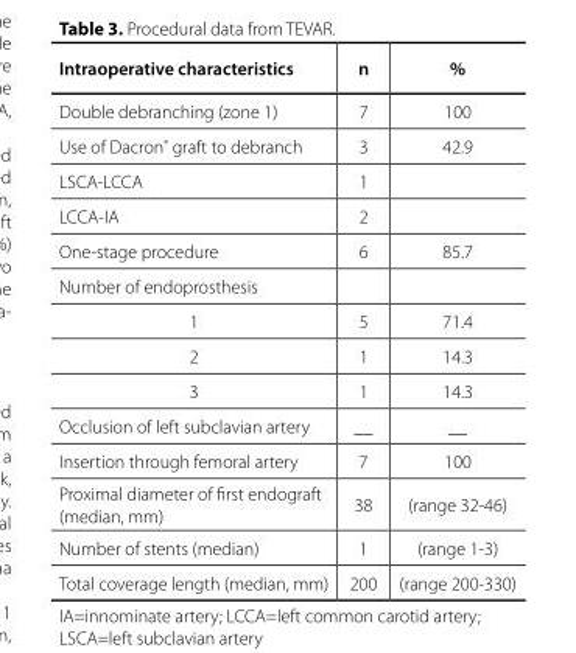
<table><thead><tr><td>Intraoperative characteristics</td><td>n</td><td>%</td></tr></thead><tbody><tr><td>Double debranching (zone 1)</td><td>7</td><td>100</td></tr><tr><td>Use of Dacron<sup>®</sup> graft to debranch</td><td>3</td><td>42.9</td></tr><tr><td>LSCA-LCCA</td><td>1</td><td></td></tr><tr><td>LCCA-IA</td><td>2</td><td></td></tr><tr><td>One-stage procedure</td><td>6</td><td>85.7</td></tr><tr><td colspan="3">Number of endoprosthesis</td></tr><tr><td>1</td><td>5</td><td>71.4</td></tr><tr><td>2</td><td>1</td><td>14.3</td></tr><tr><td>3</td><td>1</td><td>14.3</td></tr><tr><td>Occlusion of left subclavian artery</td><td>__</td><td>__</td></tr><tr><td>Insertion through femoral artery</td><td>7</td><td>100</td></tr><tr><td>Proximal diameter of first endograft (median, mm)</td><td>38</td><td>(range 32-46)</td></tr><tr><td>Number of stents (median)</td><td>1</td><td>(range 1-3)</td></tr><tr><td>Total coverage length (median, mm)</td><td>200</td><td>(range 200-330)</td></tr></tbody></table>